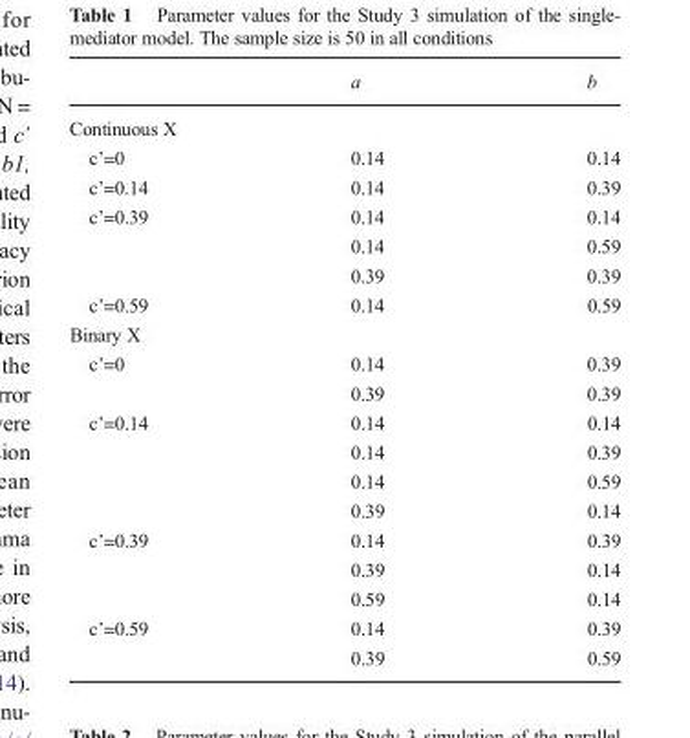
<table><thead><tr><td></td><td>a</td><td>b</td></tr></thead><tbody><tr><td colspan="3">Continuous X</td></tr><tr><td>c’=0</td><td>0.14</td><td>0.14</td></tr><tr><td>c’=0.14</td><td>0.14</td><td>0.39</td></tr><tr><td rowspan="3">c’=0.39</td><td>0.14</td><td>0.14</td></tr><tr><td>0.14</td><td>0.59</td></tr><tr><td>0.39</td><td>0.39</td></tr><tr><td>c’=0.59</td><td>0.14</td><td>0.59</td></tr><tr><td colspan="3">Binary X</td></tr><tr><td rowspan="2">c’=0</td><td>0.14</td><td>0.39</td></tr><tr><td>0.39</td><td>0.39</td></tr><tr><td rowspan="4">c’=0.14</td><td>0.14</td><td>0.14</td></tr><tr><td>0.14</td><td>0.39</td></tr><tr><td>0.14</td><td>0.59</td></tr><tr><td>0.39</td><td>0.14</td></tr><tr><td rowspan="3">c’=0.39</td><td>0.14</td><td>0.39</td></tr><tr><td>0.39</td><td>0.14</td></tr><tr><td>0.59</td><td>0.14</td></tr><tr><td rowspan="2">c’=0.59</td><td>0.14</td><td>0.39</td></tr><tr><td>0.39</td><td>0.59</td></tr></tbody></table>